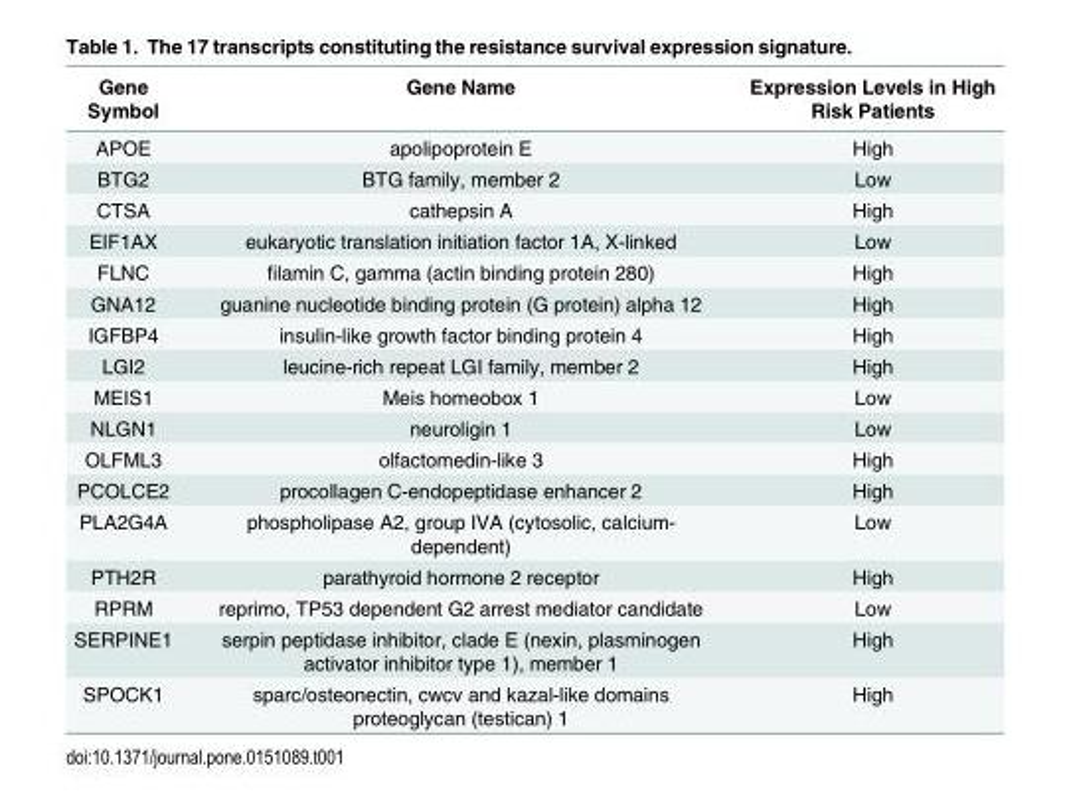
<table><thead><tr><td>Gene Symbol</td><td>Gene Name</td><td>Expression Levels in High Risk Patients</td></tr></thead><tbody><tr><td>APOE</td><td>apolipoprotein E</td><td>High</td></tr><tr><td>BTG2</td><td>BTG family, member 2</td><td>Low</td></tr><tr><td>CTSA</td><td>cathepsin A</td><td>High</td></tr><tr><td>EIF1AX</td><td>eukaryotic translation initiation factor 1A, X-linked</td><td>Low</td></tr><tr><td>FLNC</td><td>filamin C, gamma (actin binding protein 280)</td><td>High</td></tr><tr><td>GNA12</td><td>guanine nucleotide binding protein (G protein) alpha 12</td><td>High</td></tr><tr><td>IGFBP4</td><td>insulin-like growth factor binding protein 4</td><td>High</td></tr><tr><td>LGI2</td><td>leucine-rich repeat LGI family, member 2</td><td>High</td></tr><tr><td>MEIS1</td><td>Meis homeobox 1</td><td>Low</td></tr><tr><td>NLGN1</td><td>neuroligin 1</td><td>Low</td></tr><tr><td>OLFML3</td><td>olfactomedin-like 3</td><td>High</td></tr><tr><td>PCOLCE2</td><td>procollagen C-endopeptidase enhancer 2</td><td>High</td></tr><tr><td>PLA2G4A</td><td>phospholipase A2, group IVA (cytosolic, calcium- dependent)</td><td>Low</td></tr><tr><td>PTH2R</td><td>parathyroid hormone 2 receptor</td><td>High</td></tr><tr><td>RPRM</td><td>reprimo, TP53 dependent G2 arrest mediator candidate</td><td>Low</td></tr><tr><td>SERPINE1</td><td>serpin peptidase inhibitor, clade E (nexin, plasminogen activator inhibitor type 1), member 1</td><td>High</td></tr><tr><td>SPOCK1</td><td>sparc/osteonectin, cwcv and kazal-like domains proteoglycan (testican) 1</td><td>High</td></tr></tbody></table>